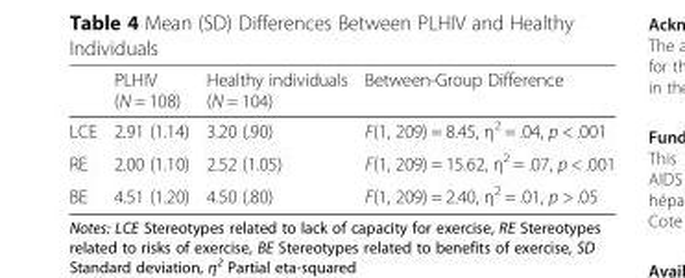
<table><thead><tr><td></td><td>PLHIV (N = 108)</td><td>Healthy individuals (N = 104)</td><td>Between-Group Difference</td></tr></thead><tbody><tr><td>LCE</td><td>2.91 (1.14)</td><td>3.20 (.90)</td><td>F(1, 209) = 8.45, η<sup>2</sup> = .04, p &lt; .001</td></tr><tr><td>RE</td><td>2.00 (1.10)</td><td>2.52 (1.05)</td><td>F(1, 209) = 15.62, η<sup>2</sup> = .07, p &lt; .001</td></tr><tr><td>BE</td><td>4.51 (1.20)</td><td>4.50 (.80)</td><td>F(1, 209) = 2.40, η<sup>2</sup> = .01, p &gt; .05</td></tr></tbody></table>